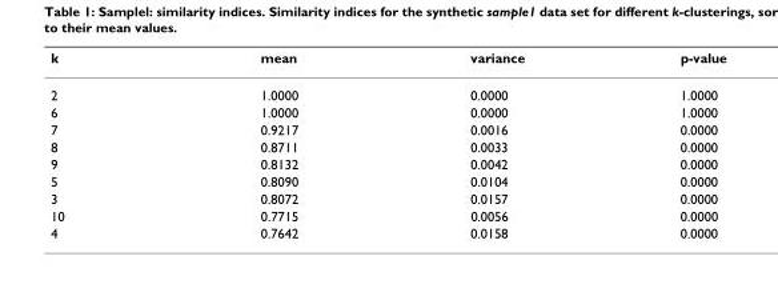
<table><thead><tr><td>k</td><td>mean</td><td>variance</td><td>p-value</td></tr></thead><tbody><tr><td>2</td><td>1.0000</td><td>0.0000</td><td>1.0000</td></tr><tr><td>6</td><td>1.0000</td><td>0.0000</td><td>1.0000</td></tr><tr><td>7</td><td>0.9217</td><td>0.0016</td><td>0.0000</td></tr><tr><td>8</td><td>0.8711</td><td>0.0033</td><td>0.0000</td></tr><tr><td>9</td><td>0.8132</td><td>0.0042</td><td>0.0000</td></tr><tr><td>5</td><td>0.8090</td><td>0.0104</td><td>0.0000</td></tr><tr><td>3</td><td>0.8072</td><td>0.0157</td><td>0.0000</td></tr><tr><td>10</td><td>0.7715</td><td>0.0056</td><td>0.0000</td></tr><tr><td>4</td><td>0.7642</td><td>0.0158</td><td>0.0000</td></tr></tbody></table>